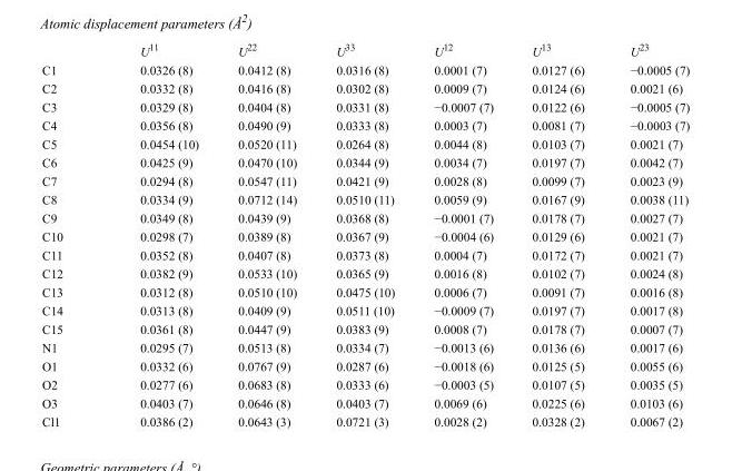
<table><thead><tr><td></td><td>U<sup>11</sup></td><td>U<sup>22</sup></td><td>U<sup>33</sup></td><td>U<sup>12</sup></td><td>U<sup>13</sup></td><td>U<sup>23</sup></td></tr></thead><tbody><tr><td>C1</td><td>0.0326 (8)</td><td>0.0412 (8)</td><td>0.0316 (8)</td><td>0.0001 (7)</td><td>0.0127 (6)</td><td>−0.0005 (7)</td></tr><tr><td>C2</td><td>0.0332 (8)</td><td>0.0416 (8)</td><td>0.0302 (8)</td><td>0.0009 (7)</td><td>0.0124 (6)</td><td>0.0021 (6)</td></tr><tr><td>C3</td><td>0.0329 (8)</td><td>0.0404 (8)</td><td>0.0331 (8)</td><td>−0.0007 (7)</td><td>0.0122 (6)</td><td>−0.0005 (7)</td></tr><tr><td>C4</td><td>0.0356 (8)</td><td>0.0490 (9)</td><td>0.0333 (8)</td><td>0.0003 (7)</td><td>0.0081 (7)</td><td>−0.0003 (7)</td></tr><tr><td>C5</td><td>0.0454 (10)</td><td>0.0520 (11)</td><td>0.0264 (8)</td><td>0.0044 (8)</td><td>0.0103 (7)</td><td>0.0021 (7)</td></tr><tr><td>C6</td><td>0.0425 (9)</td><td>0.0470 (10)</td><td>0.0344 (9)</td><td>0.0034 (7)</td><td>0.0197 (7)</td><td>0.0042 (7)</td></tr><tr><td>C7</td><td>0.0294 (8)</td><td>0.0547 (11)</td><td>0.0421 (9)</td><td>0.0028 (8)</td><td>0.0099 (7)</td><td>0.0023 (9)</td></tr><tr><td>C8</td><td>0.0334 (9)</td><td>0.0712 (14)</td><td>0.0510 (11)</td><td>0.0059 (9)</td><td>0.0167 (9)</td><td>0.0038 (11)</td></tr><tr><td>C9</td><td>0.0349 (8)</td><td>0.0439 (9)</td><td>0.0368 (8)</td><td>−0.0001 (7)</td><td>0.0178 (7)</td><td>0.0027 (7)</td></tr><tr><td>C10</td><td>0.0298 (7)</td><td>0.0389 (8)</td><td>0.0367 (9)</td><td>−0.0004 (6)</td><td>0.0129 (6)</td><td>0.0021 (7)</td></tr><tr><td>C11</td><td>0.0352 (8)</td><td>0.0407 (8)</td><td>0.0373 (8)</td><td>0.0004 (7)</td><td>0.0172 (7)</td><td>0.0021 (7)</td></tr><tr><td>C12</td><td>0.0382 (9)</td><td>0.0533 (10)</td><td>0.0365 (9)</td><td>0.0016 (8)</td><td>0.0102 (7)</td><td>0.0024 (8)</td></tr><tr><td>C13</td><td>0.0312 (8)</td><td>0.0510 (10)</td><td>0.0475 (10)</td><td>0.0006 (7)</td><td>0.0091 (7)</td><td>0.0016 (8)</td></tr><tr><td>C14</td><td>0.0313 (8)</td><td>0.0409 (9)</td><td>0.0511 (10)</td><td>−0.0009 (7)</td><td>0.0197 (7)</td><td>0.0017 (8)</td></tr><tr><td>C15</td><td>0.0361 (8)</td><td>0.0447 (9)</td><td>0.0383 (9)</td><td>0.0008 (7)</td><td>0.0178 (7)</td><td>0.0007 (7)</td></tr><tr><td>N1</td><td>0.0295 (7)</td><td>0.0513 (8)</td><td>0.0334 (7)</td><td>−0.0013 (6)</td><td>0.0136 (6)</td><td>0.0017 (6)</td></tr><tr><td>O1</td><td>0.0332 (6)</td><td>0.0767 (9)</td><td>0.0287 (6)</td><td>−0.0018 (6)</td><td>0.0125 (5)</td><td>0.0055 (6)</td></tr><tr><td>O2</td><td>0.0277 (6)</td><td>0.0683 (8)</td><td>0.0333 (6)</td><td>−0.0003 (5)</td><td>0.0107 (5)</td><td>0.0035 (5)</td></tr><tr><td>O3</td><td>0.0403 (7)</td><td>0.0646 (8)</td><td>0.0403 (7)</td><td>0.0069 (6)</td><td>0.0225 (6)</td><td>0.0103 (6)</td></tr><tr><td>Cl1</td><td>0.0386 (2)</td><td>0.0643 (3)</td><td>0.0721 (3)</td><td>0.0028 (2)</td><td>0.0328 (2)</td><td>0.0067 (2)</td></tr></tbody></table>